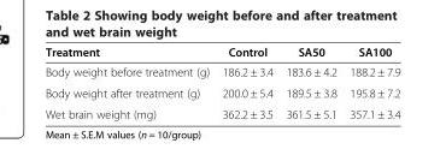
<table><thead><tr><td>Treatment</td><td>Control</td><td>SA50</td><td>SA100</td></tr></thead><tbody><tr><td>Body weight before treatment (g)</td><td>186.2 ± 3.4</td><td>183.6 ± 4.2</td><td>188.2 ± 7.9</td></tr><tr><td>Body weight after treatment (g)</td><td>200.0 ± 5.4</td><td>189.5 ± 3.8</td><td>195.8 ± 7.2</td></tr><tr><td>Wet brain weight (mg)</td><td>362.2 ± 3.5</td><td>361.5 ± 5.1</td><td>357.1 ± 3.4</td></tr></tbody></table>